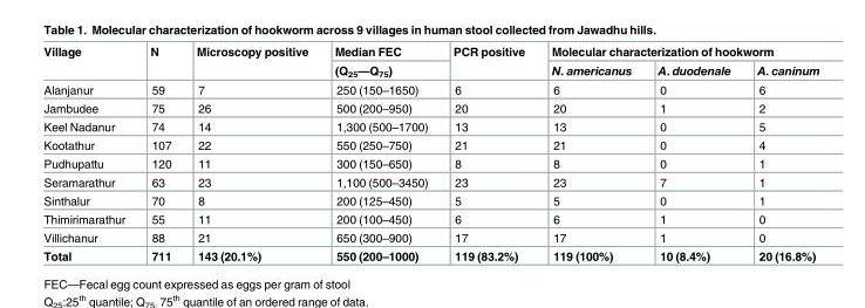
<table><thead><tr><td rowspan="2">Village</td><td rowspan="2">N</td><td rowspan="2">Microscopy positive</td><td rowspan="2">Median FEC (Q<sub>25</sub>—Q<sub>75</sub>)</td><td rowspan="2">PCR positive</td><td colspan="3">Molecular characterization of hookworm</td></tr><tr><td>N. americanus</td><td>A. duodenale</td><td>A. caninum</td></tr></thead><tbody><tr><td>Alanjanur</td><td>59</td><td>7</td><td>250 (150–1650)</td><td>6</td><td>6</td><td>0</td><td>6</td></tr><tr><td>Jambudee</td><td>75</td><td>26</td><td>500 (200–950)</td><td>20</td><td>20</td><td>1</td><td>2</td></tr><tr><td>Keel Nadanur</td><td>74</td><td>14</td><td>1,300 (500–1700)</td><td>13</td><td>13</td><td>0</td><td>5</td></tr><tr><td>Kootathur</td><td>107</td><td>22</td><td>550 (250–750)</td><td>21</td><td>21</td><td>0</td><td>4</td></tr><tr><td>Pudhupattu</td><td>120</td><td>11</td><td>300 (150–650)</td><td>8</td><td>8</td><td>0</td><td>1</td></tr><tr><td>Seramarathur</td><td>63</td><td>23</td><td>1,100 (500–3450)</td><td>23</td><td>23</td><td>7</td><td>1</td></tr><tr><td>Sinthalur</td><td>70</td><td>8</td><td>200 (125–450)</td><td>5</td><td>5</td><td>0</td><td>1</td></tr><tr><td>Thimirimarathur</td><td>55</td><td>11</td><td>200 (100–450)</td><td>6</td><td>6</td><td>1</td><td>0</td></tr><tr><td>Villichanur</td><td>88</td><td>21</td><td>650 (300–900)</td><td>17</td><td>17</td><td>1</td><td>0</td></tr><tr><td>Total</td><td>711</td><td>143 (20.1%)</td><td>550 (200–1000)</td><td>119 (83.2%)</td><td>119 (100%)</td><td>10 (8.4%)</td><td>20 (16.8%)</td></tr></tbody></table>